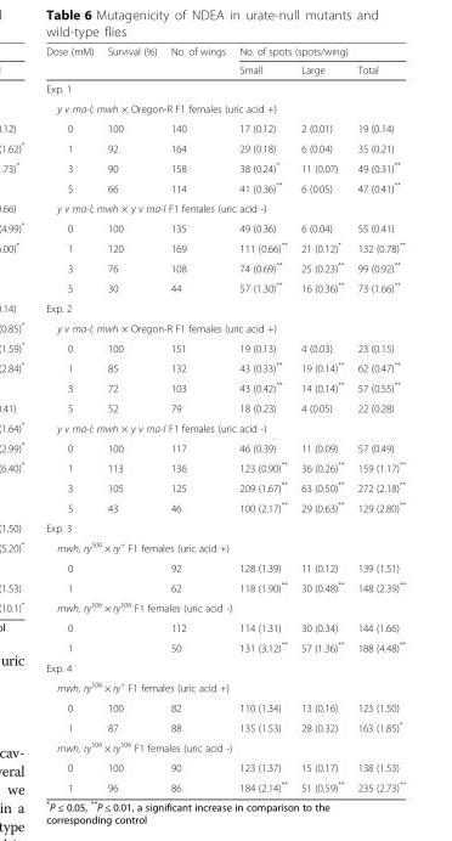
<table><thead><tr><td rowspan="2">Dose (mM)</td><td rowspan="2">Survival (%)</td><td rowspan="2">No. of wings</td><td colspan="3">No. of spots (spots/wing)</td></tr><tr><td>Small</td><td>Large</td><td>Total</td></tr></thead><tbody><tr><td colspan="6">Exp. 1</td></tr><tr><td colspan="6">y v ma-l; mwh × Oregon-R F1 females (uric acid +)</td></tr><tr><td>0</td><td>100</td><td>140</td><td>17 (0.12)</td><td>2 (0.01)</td><td>19 (0.14)</td></tr><tr><td>1</td><td>92</td><td>164</td><td>29 (0.18)</td><td>6 (0.04)</td><td>35 (0.21)</td></tr><tr><td>3</td><td>90</td><td>158</td><td>38 (0.24)*</td><td>11 (0.07)</td><td>49 (0.31)**</td></tr><tr><td>5</td><td>66</td><td>114</td><td>41 (0.36)**</td><td>6 (0.05)</td><td>47 (0.41)**</td></tr><tr><td colspan="6">y v ma-l; mwh × y v ma-l F1 females (uric acid -)</td></tr><tr><td>0</td><td>100</td><td>135</td><td>49 (0.36)</td><td>6 (0.04)</td><td>55 (0.41)</td></tr><tr><td>1</td><td>120</td><td>169</td><td>111 (0.66)**</td><td>21 (0.12)*</td><td>132 (0.78)**</td></tr><tr><td>3</td><td>76</td><td>108</td><td>74 (0.69)**</td><td>25 (0.23)**</td><td>99 (0.92)**</td></tr><tr><td>5</td><td>30</td><td>44</td><td>57 (1.30)**</td><td>16 (0.36)**</td><td>73 (1.66)**</td></tr><tr><td colspan="6">Exp. 2</td></tr><tr><td colspan="6">y v ma-l; mwh × Oregon-R F1 females (uric acid +)</td></tr><tr><td>0</td><td>100</td><td>151</td><td>19 (0.13)</td><td>4 (0.03)</td><td>23 (0.15)</td></tr><tr><td>1</td><td>85</td><td>132</td><td>43 (0.33)**</td><td>19 (0.14)**</td><td>62 (0.47)**</td></tr><tr><td>3</td><td>72</td><td>103</td><td>43 (0.42)**</td><td>14 (0.14)**</td><td>57 (0.55)**</td></tr><tr><td>5</td><td>52</td><td>79</td><td>18 (0.23)</td><td>4 (0.05)</td><td>22 (0.28)</td></tr><tr><td colspan="6">y v ma-l; mwh × y v ma-l F1 females (uric acid -)</td></tr><tr><td>0</td><td>100</td><td>117</td><td>46 (0.39)</td><td>11 (0.09)</td><td>57 (0.49)</td></tr><tr><td>1</td><td>113</td><td>136</td><td>123 (0.90)**</td><td>36 (0.26)**</td><td>159 (1.17)**</td></tr><tr><td>3</td><td>105</td><td>125</td><td>209 (1.67)**</td><td>63 (0.50)**</td><td>272 (2.18)**</td></tr><tr><td>5</td><td>43</td><td>46</td><td>100 (2.17)**</td><td>29 (0.63)**</td><td>129 (2.80)**</td></tr><tr><td colspan="6">Exp. 3</td></tr><tr><td colspan="6">mwh, ry<sup>506</sup> × ry<sup>+</sup> F1 females (uric acid +)</td></tr><tr><td>0</td><td></td><td>92</td><td>128 (1.39)</td><td>11 (0.12)</td><td>139 (1.51)</td></tr><tr><td>1</td><td></td><td>62</td><td>118 (1.90)**</td><td>30 (0.48)**</td><td>148 (2.39)**</td></tr><tr><td colspan="6">mwh, ry<sup>506</sup> × ry<sup>506</sup> F1 females (uric acid -)</td></tr><tr><td>0</td><td></td><td>112</td><td>114 (1.31)</td><td>30 (0.34)</td><td>144 (1.66)</td></tr><tr><td>1</td><td></td><td>50</td><td>131 (3.12)**</td><td>57 (1.36)**</td><td>188 (4.48)**</td></tr><tr><td colspan="6">Exp. 4</td></tr><tr><td colspan="6">mwh, ry<sup>506</sup> × ry<sup>+</sup> F1 females (uric acid +)</td></tr><tr><td>0</td><td>100</td><td>82</td><td>110 (1.34)</td><td>13 (0.16)</td><td>123 (1.50)</td></tr><tr><td>1</td><td>87</td><td>88</td><td>135 (1.53)</td><td>28 (0.32)</td><td>163 (1.85)*</td></tr><tr><td colspan="6">mwh, ry<sup>506</sup> × ry<sup>506</sup> F1 females (uric acid -)</td></tr><tr><td>0</td><td>100</td><td>90</td><td>123 (1.37)</td><td>15 (0.17)</td><td>138 (1.53)</td></tr><tr><td>1</td><td>96</td><td>86</td><td>184 (2.14)**</td><td>51 (0.59)**</td><td>235 (2.73)**</td></tr></tbody></table>